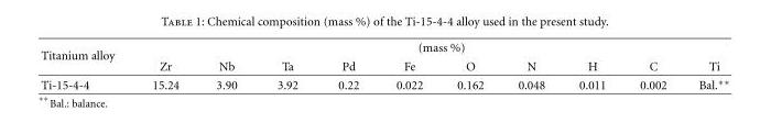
<table><thead><tr><td rowspan="2">Titanium alloy</td><td colspan="10">(mass %)</td></tr><tr><td>Zr</td><td>Nb</td><td>Ta</td><td>Pd</td><td>Fe</td><td>O</td><td>N</td><td>H</td><td>C</td><td>Ti</td></tr></thead><tbody><tr><td>Ti-15-4-4</td><td>15.24</td><td>3.90</td><td>3.92</td><td>0.22</td><td>0.022</td><td>0.162</td><td>0.048</td><td>0.011</td><td>0.002</td><td>Bal.∗∗</td></tr></tbody></table>